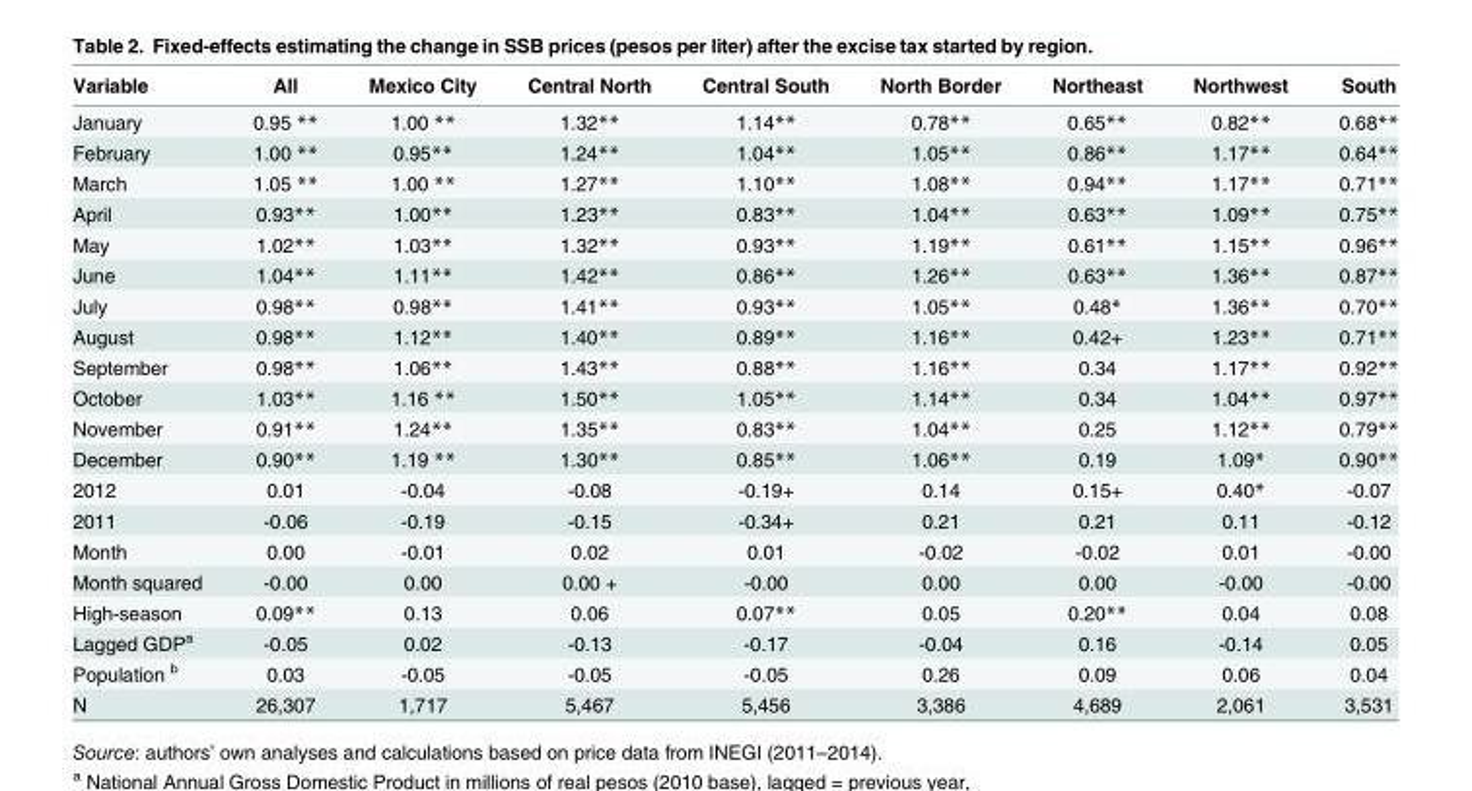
<table><thead><tr><td>Variable</td><td>All</td><td>Mexico City</td><td>Central North</td><td>Central South</td><td>North Border</td><td>Northeast</td><td>Northwest</td><td>South</td></tr></thead><tbody><tr><td>January</td><td>0.95 **</td><td>1.00 **</td><td>1.32**</td><td>1.14**</td><td>0.78**</td><td>0.65**</td><td>0.82**</td><td>0.68**</td></tr><tr><td>February</td><td>1.00 **</td><td>0.95**</td><td>1.24**</td><td>1.04**</td><td>1.05**</td><td>0.86**</td><td>1.17**</td><td>0.64**</td></tr><tr><td>March</td><td>1.05 **</td><td>1.00 **</td><td>1.27**</td><td>1.10**</td><td>1.08**</td><td>0.94**</td><td>1.17**</td><td>0.71**</td></tr><tr><td>April</td><td>0.93**</td><td>1.00**</td><td>1.23**</td><td>0.83**</td><td>1.04**</td><td>0.63**</td><td>1.09**</td><td>0.75**</td></tr><tr><td>May</td><td>1.02**</td><td>1.03**</td><td>1.32**</td><td>0.93**</td><td>1.19**</td><td>0.61**</td><td>1.15**</td><td>0.96**</td></tr><tr><td>June</td><td>1.04**</td><td>1.11**</td><td>1.42**</td><td>0.86**</td><td>1.26**</td><td>0.63**</td><td>1.36**</td><td>0.87**</td></tr><tr><td>July</td><td>0.98**</td><td>0.98**</td><td>1.41**</td><td>0.93**</td><td>1.05**</td><td>0.48*</td><td>1.36**</td><td>0.70**</td></tr><tr><td>August</td><td>0.98**</td><td>1.12**</td><td>1.40**</td><td>0.89**</td><td>1.16**</td><td>0.42+</td><td>1.23**</td><td>0.71**</td></tr><tr><td>September</td><td>0.98**</td><td>1.06**</td><td>1.43**</td><td>0.88**</td><td>1.16**</td><td>0.34</td><td>1.17**</td><td>0.92**</td></tr><tr><td>October</td><td>1.03**</td><td>1.16 **</td><td>1.50**</td><td>1.05**</td><td>1.14**</td><td>0.34</td><td>1.04**</td><td>0.97**</td></tr><tr><td>November</td><td>0.91**</td><td>1.24**</td><td>1.35**</td><td>0.83**</td><td>1.04**</td><td>0.25</td><td>1.12**</td><td>0.79**</td></tr><tr><td>December</td><td>0.90**</td><td>1.19 **</td><td>1.30**</td><td>0.85**</td><td>1.06**</td><td>0.19</td><td>1.09*</td><td>0.90**</td></tr><tr><td>2012</td><td>0.01</td><td>-0.04</td><td>-0.08</td><td>-0.19+</td><td>0.14</td><td>0.15+</td><td>0.40*</td><td>-0.07</td></tr><tr><td>2011</td><td>-0.06</td><td>-0.19</td><td>-0.15</td><td>-0.34+</td><td>0.21</td><td>0.21</td><td>0.11</td><td>-0.12</td></tr><tr><td>Month</td><td>0.00</td><td>-0.01</td><td>0.02</td><td>0.01</td><td>-0.02</td><td>-0.02</td><td>0.01</td><td>-0.00</td></tr><tr><td>Month squared</td><td>-0.00</td><td>0.00</td><td>0.00 +</td><td>-0.00</td><td>0.00</td><td>0.00</td><td>-0.00</td><td>-0.00</td></tr><tr><td>High-season</td><td>0.09**</td><td>0.13</td><td>0.06</td><td>0.07**</td><td>0.05</td><td>0.20**</td><td>0.04</td><td>0.08</td></tr><tr><td>Lagged GDP<sup>a</sup></td><td>-0.05</td><td>0.02</td><td>-0.13</td><td>-0.17</td><td>-0.04</td><td>0.16</td><td>-0.14</td><td>0.05</td></tr><tr><td>Population <sup>b</sup></td><td>0.03</td><td>-0.05</td><td>-0.05</td><td>-0.05</td><td>0.26</td><td>0.09</td><td>0.06</td><td>0.04</td></tr><tr><td>N</td><td>26,307</td><td>1,717</td><td>5,467</td><td>5,456</td><td>3,386</td><td>4,689</td><td>2,061</td><td>3,531</td></tr></tbody></table>